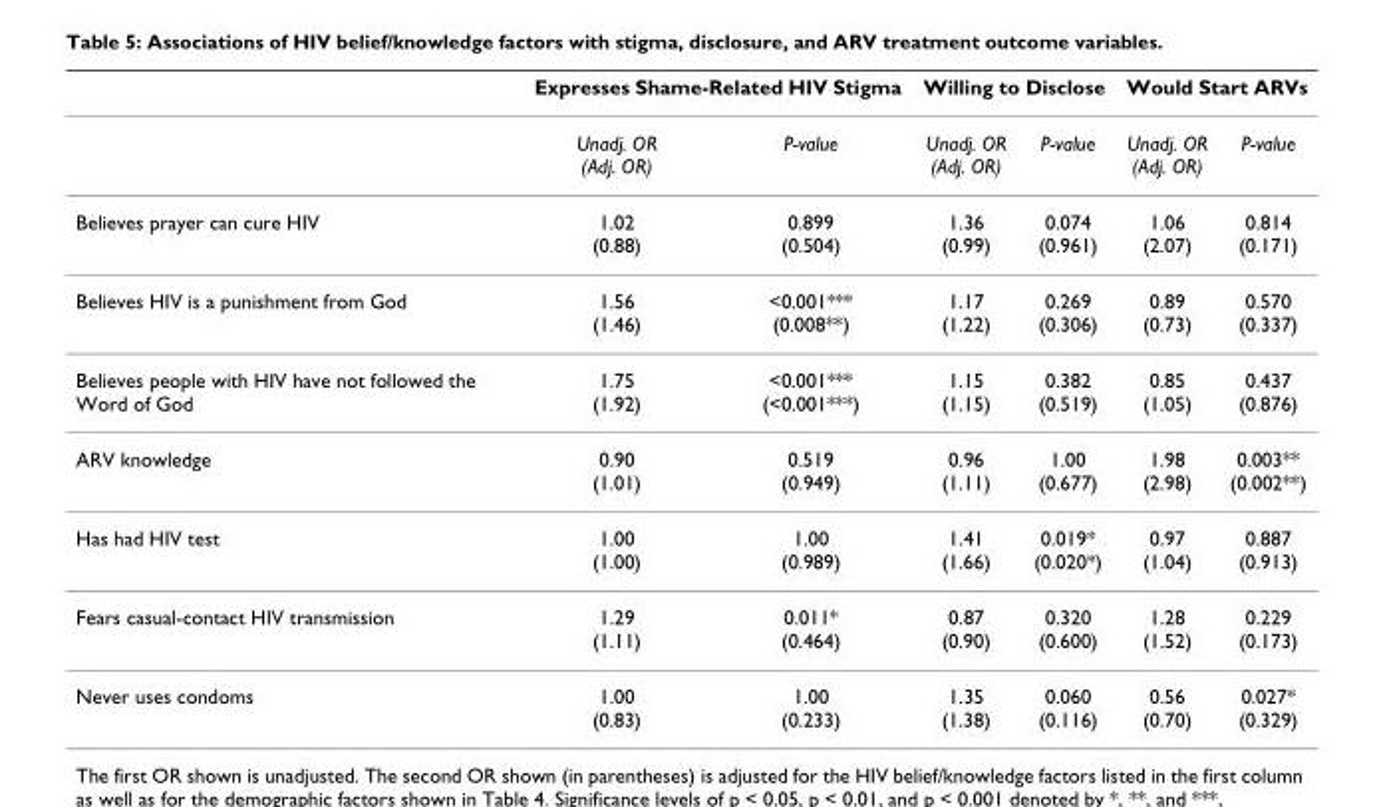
<table><thead><tr><td rowspan="2"></td><td colspan="2">Expresses Shame-Related HIV Stigma</td><td colspan="2">Willing to Disclose</td><td colspan="2">Would Start ARVs</td></tr><tr><td>Unadj. OR (Adj. OR)</td><td>P-value</td><td>Unadj. OR (Adj. OR)</td><td>P-value</td><td>Unadj. OR (Adj. OR)</td><td>P-value</td></tr></thead><tbody><tr><td>Believes prayer can cure HIV</td><td>1.02 (0.88)</td><td>0.899 (0.504)</td><td>1.36 (0.99)</td><td>0.074 (0.961)</td><td>1.06 (2.07)</td><td>0.814 (0.171)</td></tr><tr><td>Believes HIV is a punishment from God</td><td>1.56 (1.46)</td><td>&lt;0.001*** (0.008**)</td><td>1.17 (1.22)</td><td>0.269 (0.306)</td><td>0.89 (0.73)</td><td>0.570 (0.337)</td></tr><tr><td>Believes people with HIV have not followed the Word of God</td><td>1.75 (1.92)</td><td>&lt;0.001*** (&lt;0.001***)</td><td>1.15 (1.15)</td><td>0.382 (0.519)</td><td>0.85 (1.05)</td><td>0.437 (0.876)</td></tr><tr><td>ARV knowledge</td><td>0.90 (1.01)</td><td>0.519 (0.949)</td><td>0.96 (1.11)</td><td>1.00 (0.677)</td><td>1.98 (2.98)</td><td>0.003** (0.002**)</td></tr><tr><td>Has had HIV test</td><td>1.00 (1.00)</td><td>1.00 (0.989)</td><td>1.41 (1.66)</td><td>0.019* (0.020*)</td><td>0.97 (1.04)</td><td>0.887 (0.913)</td></tr><tr><td>Fears casual-contact HIV transmission</td><td>1.29 (1.11)</td><td>0.011* (0.464)</td><td>0.87 (0.90)</td><td>0.320 (0.600)</td><td>1.28 (1.52)</td><td>0.229 (0.173)</td></tr><tr><td>Never uses condoms</td><td>1.00 (0.83)</td><td>1.00 (0.233)</td><td>1.35 (1.38)</td><td>0.060 (0.116)</td><td>0.56 (0.70)</td><td>0.027* (0.329)</td></tr></tbody></table>